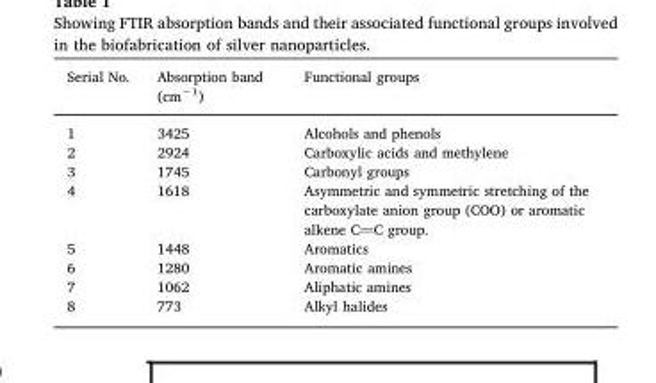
<table><thead><tr><td>Serial No.</td><td>Absorption band (cm<sup>−1</sup>)</td><td>Functional groups</td></tr></thead><tbody><tr><td>1</td><td>3425</td><td>Alcohols and phenols</td></tr><tr><td>2</td><td>2924</td><td>Carboxylic acids and methylene</td></tr><tr><td>3</td><td>1745</td><td>Carbonyl groups</td></tr><tr><td>4</td><td>1618</td><td>Asymmetric and symmetric stretching of the carboxylate anion group (COO) or aromatic alkene C]C group.</td></tr><tr><td>5</td><td>1448</td><td>Aromatics</td></tr><tr><td>6</td><td>1280</td><td>Aromatic amines</td></tr><tr><td>7</td><td>1062</td><td>Aliphatic amines</td></tr><tr><td>8</td><td>773</td><td>Alkyl halides</td></tr></tbody></table>